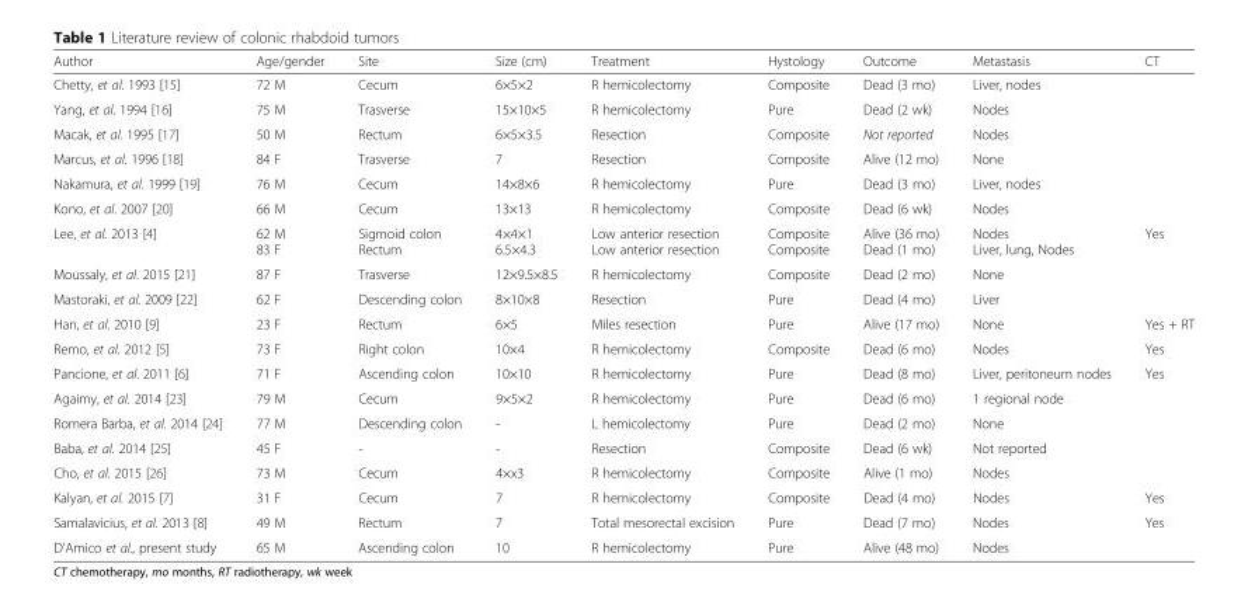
<table><thead><tr><td>Author</td><td>Age/gender</td><td>Site</td><td>Size (cm)</td><td>Treatment</td><td>Hystology</td><td>Outcome</td><td>Metastasis</td><td>CT</td></tr></thead><tbody><tr><td>Chetty, et al. 1993 [15]</td><td>72 M</td><td>Cecum</td><td>6×5×2</td><td>R hemicolectomy</td><td>Composite</td><td>Dead (3 mo)</td><td>Liver, nodes</td><td></td></tr><tr><td>Yang, et al. 1994 [16]</td><td>75 M</td><td>Trasverse</td><td>15×10×5</td><td>R hemicolectomy</td><td>Pure</td><td>Dead (2 wk)</td><td>Nodes</td><td></td></tr><tr><td>Macak, et al. 1995 [17]</td><td>50 M</td><td>Rectum</td><td>6×5×3.5</td><td>Resection</td><td>Composite</td><td>Not reported</td><td>Nodes</td><td></td></tr><tr><td>Marcus, et al. 1996 [18]</td><td>84 F</td><td>Trasverse</td><td>7</td><td>Resection</td><td>Composite</td><td>Alive (12 mo)</td><td>None</td><td></td></tr><tr><td>Nakamura, et al. 1999 [19]</td><td>76 M</td><td>Cecum</td><td>14×8×6</td><td>R hemicolectomy</td><td>Pure</td><td>Dead (3 mo)</td><td>Liver, nodes</td><td></td></tr><tr><td>Kono, et al. 2007 [20]</td><td>66 M</td><td>Cecum</td><td>13×13</td><td>R hemicolectomy</td><td>Composite</td><td>Dead (6 wk)</td><td>Nodes</td><td></td></tr><tr><td>Lee, et al. 2013 [4]</td><td>62 M 83 F</td><td>Sigmoid colon Rectum</td><td>4×4×1 6.5×4.3</td><td>Low anterior resection Low anterior resection</td><td>Composite Composite</td><td>Alive (36 mo) Dead (1 mo)</td><td>Nodes Liver, lung, Nodes</td><td>Yes</td></tr><tr><td>Moussaly, et al. 2015 [21]</td><td>87 F</td><td>Trasverse</td><td>12×9.5×8.5</td><td>R hemicolectomy</td><td>Composite</td><td>Dead (2 mo)</td><td>None</td><td></td></tr><tr><td>Mastoraki, et al. 2009 [22]</td><td>62 F</td><td>Descending colon</td><td>8×10×8</td><td>Resection</td><td>Pure</td><td>Dead (4 mo)</td><td>Liver</td><td></td></tr><tr><td>Han, et al. 2010 [9]</td><td>23 F</td><td>Rectum</td><td>6×5</td><td>Miles resection</td><td>Pure</td><td>Alive (17 mo)</td><td>None</td><td>Yes + RT</td></tr><tr><td>Remo, et al. 2012 [5]</td><td>73 F</td><td>Right colon</td><td>10×4</td><td>R hemicolectomy</td><td>Composite</td><td>Dead (6 mo)</td><td>Nodes</td><td>Yes</td></tr><tr><td>Pancione, et al. 2011 [6]</td><td>71 F</td><td>Ascending colon</td><td>10×10</td><td>R hemicolectomy</td><td>Pure</td><td>Dead (8 mo)</td><td>Liver, peritoneum nodes</td><td>Yes</td></tr><tr><td>Agaimy, et al. 2014 [23]</td><td>79 M</td><td>Cecum</td><td>9×5×2</td><td>R hemicolectomy</td><td>Pure</td><td>Dead (6 mo)</td><td>1 regional node</td><td></td></tr><tr><td>Romera Barba, et al. 2014 [24]</td><td>77 M</td><td>Descending colon</td><td>-</td><td>L hemicolectomy</td><td>Pure</td><td>Dead (2 mo)</td><td>None</td><td></td></tr><tr><td>Baba, et al. 2014 [25]</td><td>45 F</td><td>-</td><td>-</td><td>Resection</td><td>Composite</td><td>Dead (6 wk)</td><td>Not reported</td><td></td></tr><tr><td>Cho, et al. 2015 [26]</td><td>73 M</td><td>Cecum</td><td>4×x3</td><td>R hemicolectomy</td><td>Composite</td><td>Alive (1 mo)</td><td>Nodes</td><td></td></tr><tr><td>Kalyan, et al. 2015 [7]</td><td>31 F</td><td>Cecum</td><td>7</td><td>R hemicolectomy</td><td>Composite</td><td>Dead (4 mo)</td><td>Nodes</td><td>Yes</td></tr><tr><td>Samalavicius, et al. 2013 [8]</td><td>49 M</td><td>Rectum</td><td>7</td><td>Total mesorectal excision</td><td>Pure</td><td>Dead (7 mo)</td><td>Nodes</td><td>Yes</td></tr><tr><td>D’Amico et al., present study</td><td>65 M</td><td>Ascending colon</td><td>10</td><td>R hemicolectomy</td><td>Pure</td><td>Alive (48 mo)</td><td>Nodes</td><td></td></tr></tbody></table>